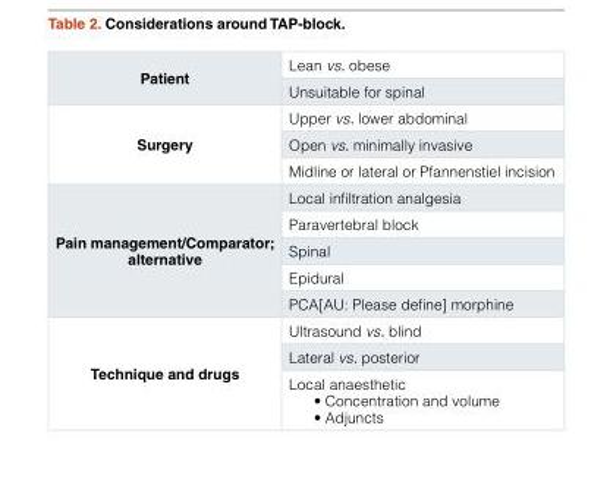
<table><tbody><tr><td rowspan="2">Patient</td><td>Lean vs. obese</td></tr><tr><td>Unsuitable for spinal</td></tr><tr><td rowspan="3">Surgery</td><td>Upper vs. lower abdominal</td></tr><tr><td>Open vs. minimally invasive</td></tr><tr><td>Midline or lateral or Pfannenstiel incision</td></tr><tr><td rowspan="5">Pain management/Comparator; alternative</td><td>Local infiltration analgesia</td></tr><tr><td>Paravertebral block</td></tr><tr><td>Spinal</td></tr><tr><td>Epidural</td></tr><tr><td>PCA[AU: Please define] morphine</td></tr><tr><td rowspan="3">Technique and drugs</td><td>Ultrasound vs. blind</td></tr><tr><td>Lateral vs. posterior</td></tr><tr><td>Local anaesthetic • Concentration and volume • Adjuncts</td></tr></tbody></table>